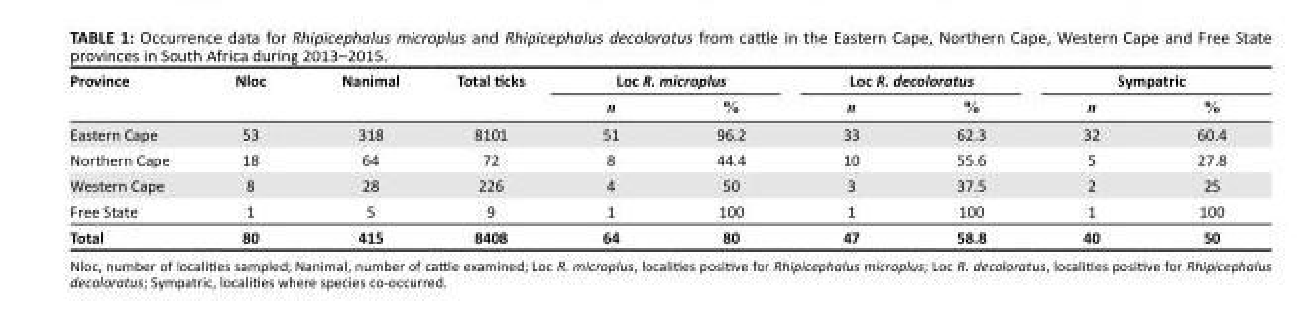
<table><thead><tr><td rowspan="2">Province</td><td rowspan="2">Nloc</td><td rowspan="2">Nanimal</td><td rowspan="2">Total ticks</td><td colspan="2">Loc R. microplus</td><td colspan="2">Loc R. decoloratus</td><td colspan="2">Sympatric</td></tr><tr><td>n</td><td>%</td><td>n</td><td>%</td><td>n</td><td>%</td></tr></thead><tbody><tr><td>Eastern Cape</td><td>53</td><td>318</td><td>8101</td><td>51</td><td>96.2</td><td>33</td><td>62.3</td><td>32</td><td>60.4</td></tr><tr><td>Northern Cape</td><td>18</td><td>64</td><td>72</td><td>8</td><td>44.4</td><td>10</td><td>55.6</td><td>5</td><td>27.8</td></tr><tr><td>Western Cape</td><td>8</td><td>28</td><td>226</td><td>4</td><td>50</td><td>3</td><td>37.5</td><td>2</td><td>25</td></tr><tr><td>Free State</td><td>1</td><td>5</td><td>9</td><td>1</td><td>100</td><td>1</td><td>100</td><td>1</td><td>100</td></tr><tr><td>Total</td><td>80</td><td>415</td><td>8408</td><td>64</td><td>80</td><td>47</td><td>58.8</td><td>40</td><td>50</td></tr></tbody></table>